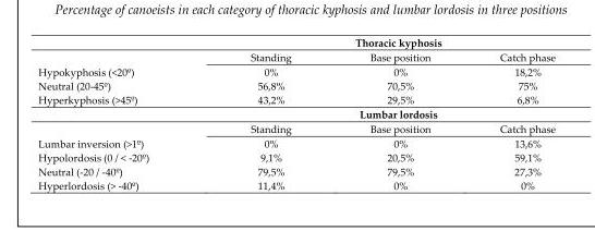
<table><thead><tr><td rowspan="2"></td><td colspan="3">Thoracic kyphosis</td></tr><tr><td>Standing</td><td>Base position</td><td>Catch phase</td></tr></thead><tbody><tr><td>Hypokyphosis (&lt;20º)</td><td>0%</td><td>0%</td><td>18,2%</td></tr><tr><td>Neutral (20-45º)</td><td>56,8%</td><td>70,5%</td><td>75%</td></tr><tr><td rowspan="3">Hyperkyphosis (&gt;45º)</td><td>43,2%</td><td>29,5%</td><td>6,8%</td></tr><tr><td colspan="3">Lumbar lordosis</td></tr><tr><td>Standing</td><td>Base position</td><td>Catch phase</td></tr><tr><td>Lumbar inversion (&gt;1º)</td><td>0%</td><td>0%</td><td>13,6%</td></tr><tr><td>Hypolordosis (0 / &lt; -20º)</td><td>9,1%</td><td>20,5%</td><td>59,1%</td></tr><tr><td>Neutral (-20 / -40º)</td><td>79,5%</td><td>79,5%</td><td>27,3%</td></tr><tr><td>Hyperlordosis (&gt; -40º)</td><td>11,4%</td><td>0%</td><td>0%</td></tr></tbody></table>